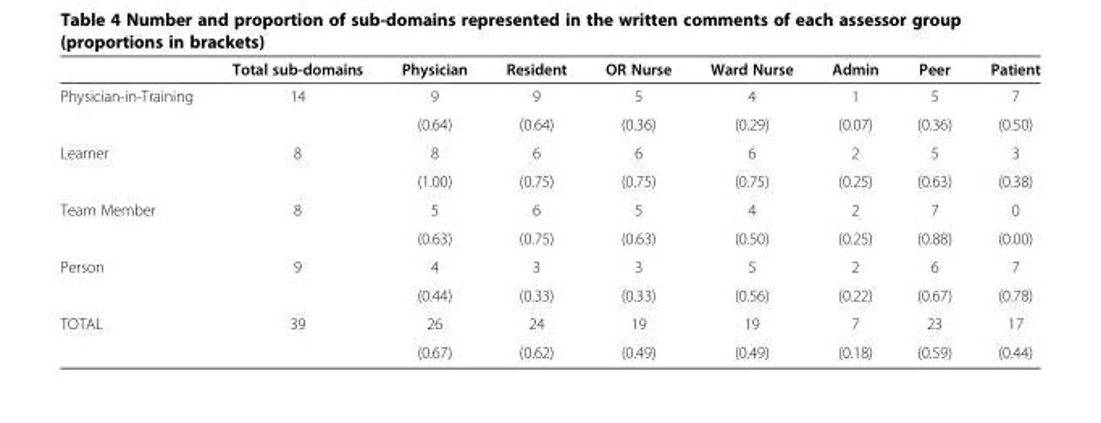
<table><thead><tr><td></td><td>Total sub-domains</td><td>Physician</td><td>Resident</td><td>OR Nurse</td><td>Ward Nurse</td><td>Admin</td><td>Peer</td><td>Patient</td></tr></thead><tbody><tr><td rowspan="2">Physician-in-Training</td><td rowspan="2">14</td><td>9</td><td>9</td><td>5</td><td>4</td><td>1</td><td>5</td><td>7</td></tr><tr><td>(0.64)</td><td>(0.64)</td><td>(0.36)</td><td>(0.29)</td><td>(0.07)</td><td>(0.36)</td><td>(0.50)</td></tr><tr><td rowspan="2">Learner</td><td rowspan="2">8</td><td>8</td><td>6</td><td>6</td><td>6</td><td>2</td><td>5</td><td>3</td></tr><tr><td>(1.00)</td><td>(0.75)</td><td>(0.75)</td><td>(0.75)</td><td>(0.25)</td><td>(0.63)</td><td>(0.38)</td></tr><tr><td rowspan="2">Team Member</td><td rowspan="2">8</td><td>5</td><td>6</td><td>5</td><td>4</td><td>2</td><td>7</td><td>0</td></tr><tr><td>(0.63)</td><td>(0.75)</td><td>(0.63)</td><td>(0.50)</td><td>(0.25)</td><td>(0.88)</td><td>(0.00)</td></tr><tr><td rowspan="2">Person</td><td rowspan="2">9</td><td>4</td><td>3</td><td>3</td><td>5</td><td>2</td><td>6</td><td>7</td></tr><tr><td>(0.44)</td><td>(0.33)</td><td>(0.33)</td><td>(0.56)</td><td>(0.22)</td><td>(0.67)</td><td>(0.78)</td></tr><tr><td rowspan="2">TOTAL</td><td>39</td><td>26</td><td>24</td><td>19</td><td>19</td><td>7</td><td>23</td><td>17</td></tr><tr><td></td><td>(0.67)</td><td>(0.62)</td><td>(0.49)</td><td>(0.49)</td><td>(0.18)</td><td>(0.59)</td><td>(0.44)</td></tr></tbody></table>